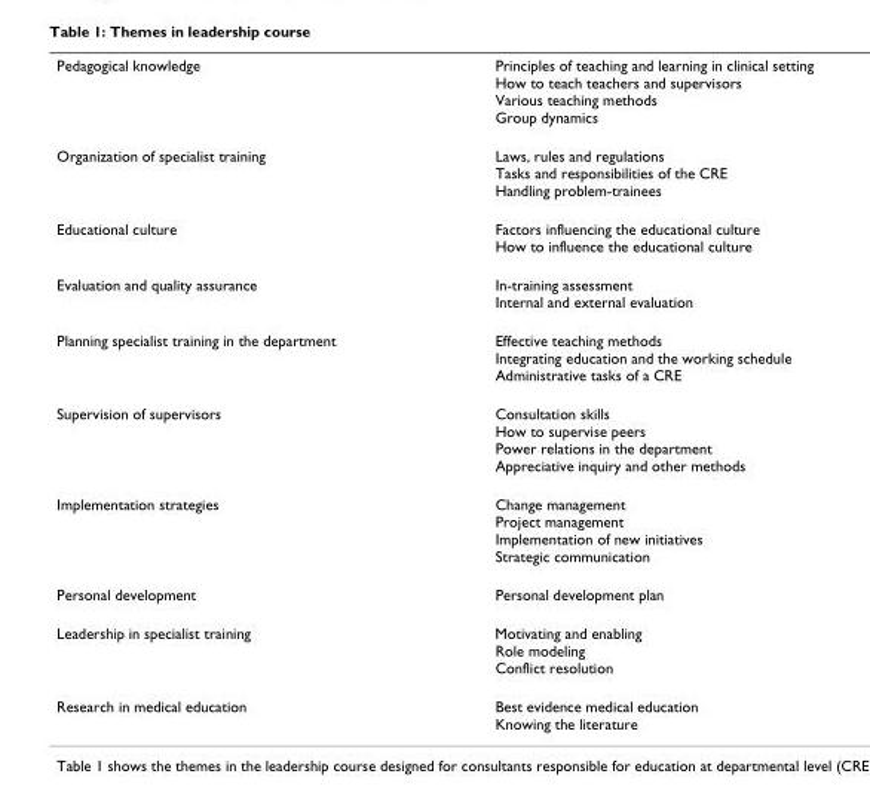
<table><tbody><tr><td>Pedagogical knowledge</td><td>Principles of teaching and learning in clinical setting How to teach teachers and supervisors Various teaching methods Group dynamics</td></tr><tr><td>Organization of specialist training</td><td>Laws, rules and regulations Tasks and responsibilities of the CRE Handling problem-trainees</td></tr><tr><td>Educational culture</td><td>Factors influencing the educational culture How to influence the educational culture</td></tr><tr><td>Evaluation and quality assurance</td><td>In-training assessment Internal and external evaluation</td></tr><tr><td>Planning specialist training in the department</td><td>Effective teaching methods Integrating education and the working schedule Administrative tasks of a CRE</td></tr><tr><td>Supervision of supervisors</td><td>Consultation skills How to supervise peers Power relations in the department Appreciative inquiry and other methods</td></tr><tr><td>Implementation strategies</td><td>Change management Project management Implementation of new initiatives Strategic communication</td></tr><tr><td>Personal development</td><td>Personal development plan</td></tr><tr><td>Leadership in specialist training</td><td>Motivating and enabling Role modeling Conflict resolution</td></tr><tr><td>Research in medical education</td><td>Best evidence medical education Knowing the literature</td></tr></tbody></table>